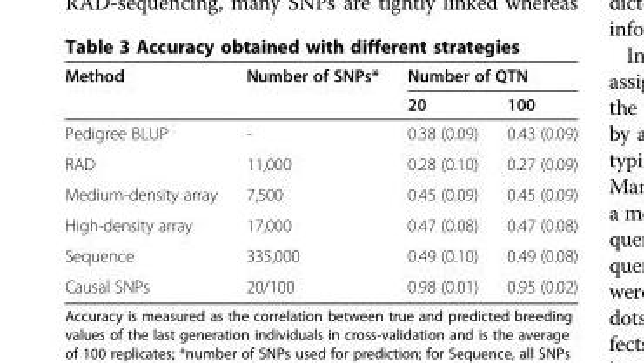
<table><thead><tr><td rowspan="2">Method</td><td rowspan="2">Number of SNPs*</td><td colspan="2">Number of QTN</td></tr><tr><td>20</td><td>100</td></tr></thead><tbody><tr><td>Pedigree BLUP</td><td>-</td><td>0.38 (0.09)</td><td>0.43 (0.09)</td></tr><tr><td>RAD</td><td>11,000</td><td>0.28 (0.10)</td><td>0.27 (0.09)</td></tr><tr><td>Medium-density array</td><td>7,500</td><td>0.45 (0.09)</td><td>0.45 (0.09)</td></tr><tr><td>High-density array</td><td>17,000</td><td>0.47 (0.08)</td><td>0.47 (0.08)</td></tr><tr><td>Sequence</td><td>335,000</td><td>0.49 (0.10)</td><td>0.49 (0.08)</td></tr><tr><td>Causal SNPs</td><td>20/100</td><td>0.98 (0.01)</td><td>0.95 (0.02)</td></tr></tbody></table>